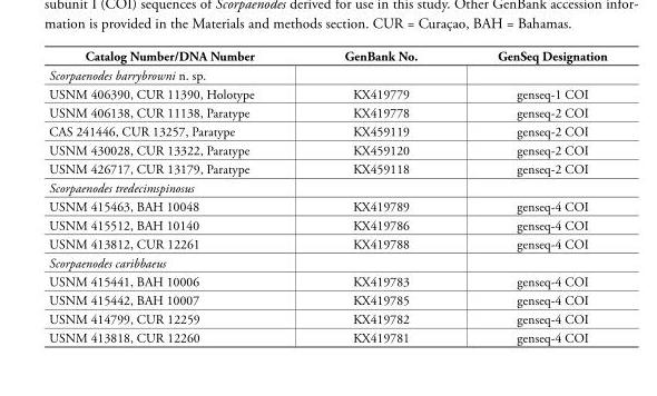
<table><thead><tr><td>Catalog Number/DNA Number</td><td>GenBank No.</td><td>GenSeq Designation</td></tr></thead><tbody><tr><td colspan="3">Scorpaenodes barrybrowni n. sp.</td></tr><tr><td>USNM 406390, CUR 11390, Holotype</td><td>KX419779</td><td>genseq-1 COI</td></tr><tr><td>USNM 406138, CUR 11138, Paratype</td><td>KX419778</td><td>genseq-2 COI</td></tr><tr><td>CAS 241446, CUR 13257, Paratype</td><td>KX459119</td><td>genseq-2 COI</td></tr><tr><td>USNM 430028, CUR 13322, Paratype</td><td>KX459120</td><td>genseq-2 COI</td></tr><tr><td>USNM 426717, CUR 13179, Paratype</td><td>KX459118</td><td>genseq-2 COI</td></tr><tr><td colspan="3">Scorpaenodes tredecimspinosus</td></tr><tr><td>USNM 415463, BAH 10048</td><td>KX419789</td><td>genseq-4 COI</td></tr><tr><td>USNM 415512, BAH 10140</td><td>KX419786</td><td>genseq-4 COI</td></tr><tr><td>USNM 413812, CUR 12261</td><td>KX419788</td><td>genseq-4 COI</td></tr><tr><td colspan="3">Scorpaenodes caribbaeus</td></tr><tr><td>USNM 415441, BAH 10006</td><td>KX419783</td><td>genseq-4 COI</td></tr><tr><td>USNM 415442, BAH 10007</td><td>KX419785</td><td>genseq-4 COI</td></tr><tr><td>USNM 414799, CUR 12259</td><td>KX419782</td><td>genseq-4 COI</td></tr><tr><td>USNM 413818, CUR 12260</td><td>KX419781</td><td>genseq-4 COI</td></tr></tbody></table>